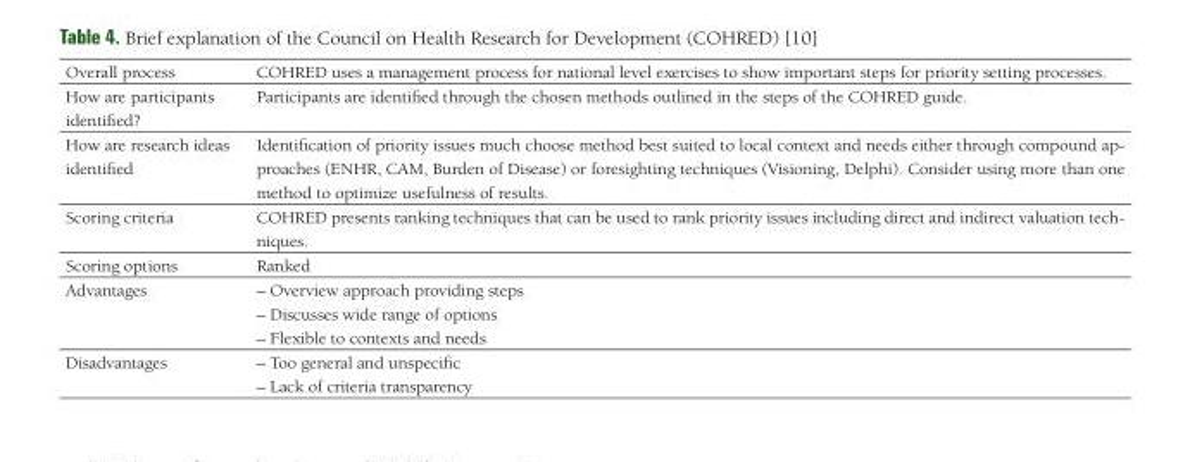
<table><tbody><tr><td>Overall process</td><td>COHRED uses a management process for national level exercises to show important steps for priority setting processes.</td></tr><tr><td>How are participants identified?</td><td>Participants are identified through the chosen methods outlined in the steps of the COHRED guide.</td></tr><tr><td>How are research ideas identified</td><td>Identification of priority issues much choose method best suited to local context and needs either through compound ap- proaches (ENHR, CAM, Burden of Disease) or foresighting techniques (Visioning, Delphi). Consider using more than one method to optimize usefulness of results.</td></tr><tr><td>Scoring criteria</td><td>COHRED presents ranking techniques that can be used to rank priority issues including direct and indirect valuation tech- niques.</td></tr><tr><td>Scoring options</td><td>Ranked</td></tr><tr><td>Advantages</td><td>– Overview approach providing steps – Discusses wide range of options – Flexible to contexts and needs</td></tr><tr><td>Disadvantages</td><td>– Too general and unspecific – Lack of criteria transparency</td></tr></tbody></table>